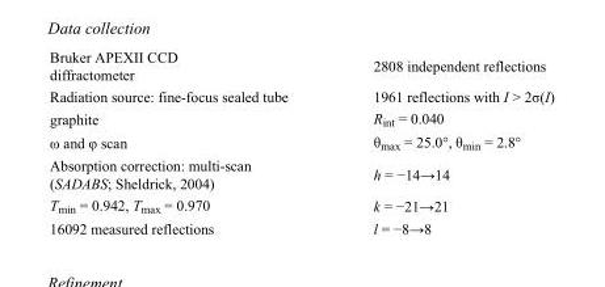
<table><tbody><tr><td>Bruker APEXII CCD diffractometer</td><td>2808 independent reflections</td></tr><tr><td>Radiation source: fine-focus sealed tube</td><td>1961 reflections with I &gt; 2σ(I)</td></tr><tr><td>graphite</td><td>R<sub>int</sub> = 0.040</td></tr><tr><td>ω and φ scan</td><td>θ<sub>max</sub> = 25.0°, θ<sub>min</sub> = 2.8°</td></tr><tr><td>Absorption correction: multi-scan (SADABS; Sheldrick, 2004)</td><td>h = −14→14</td></tr><tr><td>T<sub>min</sub> = 0.942, T<sub>max</sub> = 0.970</td><td>k = −21→21</td></tr><tr><td>16092 measured reflections</td><td>l = −8→8</td></tr></tbody></table>